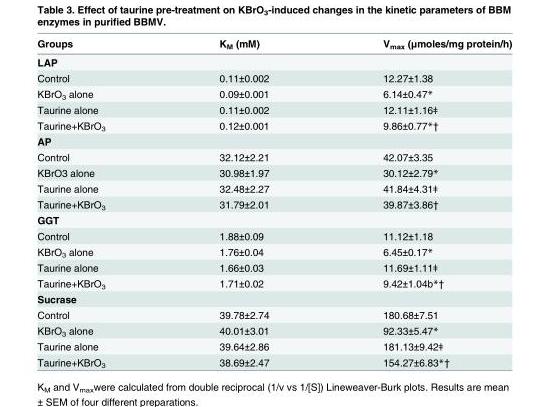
<table><thead><tr><td>Groups</td><td>K<sub>M</sub> (mM)</td><td>V<sub>max</sub> (μmoles/mg protein/h)</td></tr></thead><tbody><tr><td colspan="3">LAP</td></tr><tr><td>Control</td><td>0.11±0.002</td><td>12.27±1.38</td></tr><tr><td>KBrO<sub>3</sub> alone</td><td>0.09±0.001</td><td>6.14±0.47*</td></tr><tr><td>Taurine alone</td><td>0.11±0.002</td><td>12.11±1.16ǂ</td></tr><tr><td>Taurine+KBrO<sub>3</sub></td><td>0.12±0.001</td><td>9.86±0.77*†</td></tr><tr><td colspan="3">AP</td></tr><tr><td>Control</td><td>32.12±2.21</td><td>42.07±3.35</td></tr><tr><td>KBrO3 alone</td><td>30.98±1.97</td><td>30.12±2.79*</td></tr><tr><td>Taurine alone</td><td>32.48±2.27</td><td>41.84±4.31ǂ</td></tr><tr><td>Taurine+KBrO<sub>3</sub></td><td>31.79±2.01</td><td>39.87±3.86†</td></tr><tr><td colspan="3">GGT</td></tr><tr><td>Control</td><td>1.88±0.09</td><td>11.12±1.18</td></tr><tr><td>KBrO<sub>3</sub> alone</td><td>1.76±0.04</td><td>6.45±0.17*</td></tr><tr><td>Taurine alone</td><td>1.66±0.03</td><td>11.69±1.11ǂ</td></tr><tr><td>Taurine+KBrO<sub>3</sub></td><td>1.71±0.02</td><td>9.42±1.04<sup>b</sup>*†</td></tr><tr><td colspan="3">Sucrase</td></tr><tr><td>Control</td><td>39.78±2.74</td><td>180.68±7.51</td></tr><tr><td>KBrO<sub>3</sub> alone</td><td>40.01±3.01</td><td>92.33±5.47*</td></tr><tr><td>Taurine alone</td><td>39.64±2.86</td><td>181.13±9.42ǂ</td></tr><tr><td>Taurine+KBrO<sub>3</sub></td><td>38.69±2.47</td><td>154.27±6.83*†</td></tr></tbody></table>